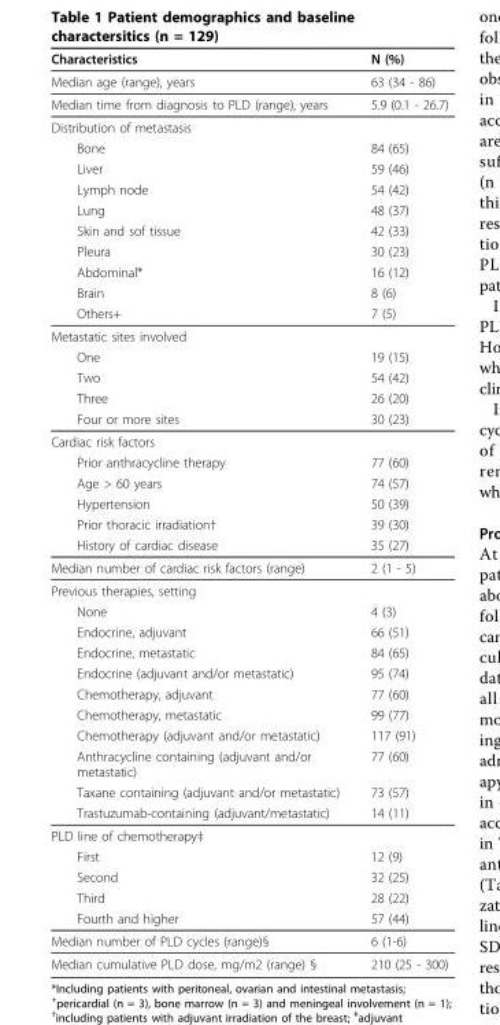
<table><thead><tr><td>Characteristics</td><td>N (%)</td></tr></thead><tbody><tr><td>Median age (range), years</td><td>63 (34 - 86)</td></tr><tr><td>Median time from diagnosis to PLD (range), years</td><td>5.9 (0.1 - 26.7)</td></tr><tr><td colspan="2">Distribution of metastasis</td></tr><tr><td>Bone</td><td>84 (65)</td></tr><tr><td>Liver</td><td>59 (46)</td></tr><tr><td>Lymph node</td><td>54 (42)</td></tr><tr><td>Lung</td><td>48 (37)</td></tr><tr><td>Skin and sof tissue</td><td>42 (33)</td></tr><tr><td>Pleura</td><td>30 (23)</td></tr><tr><td>Abdominal*</td><td>16 (12)</td></tr><tr><td>Brain</td><td>8 (6)</td></tr><tr><td>Others+</td><td>7 (5)</td></tr><tr><td colspan="2">Metastatic sites involved</td></tr><tr><td>One</td><td>19 (15)</td></tr><tr><td>Two</td><td>54 (42)</td></tr><tr><td>Three</td><td>26 (20)</td></tr><tr><td>Four or more sites</td><td>30 (23)</td></tr><tr><td colspan="2">Cardiac risk factors</td></tr><tr><td>Prior anthracycline therapy</td><td>77 (60)</td></tr><tr><td>Age &gt; 60 years</td><td>74 (57)</td></tr><tr><td>Hypertension</td><td>50 (39)</td></tr><tr><td>Prior thoracic irradiation†</td><td>39 (30)</td></tr><tr><td>History of cardiac disease</td><td>35 (27)</td></tr><tr><td>Median number of cardiac risk factors (range)</td><td>2 (1 - 5)</td></tr><tr><td colspan="2">Previous therapies, setting</td></tr><tr><td>None</td><td>4 (3)</td></tr><tr><td>Endocrine, adjuvant</td><td>66 (51)</td></tr><tr><td>Endocrine, metastatic</td><td>84 (65)</td></tr><tr><td>Endocrine (adjuvant and/or metastatic)</td><td>95 (74)</td></tr><tr><td>Chemotherapy, adjuvant</td><td>77 (60)</td></tr><tr><td>Chemotherapy, metastatic</td><td>99 (77)</td></tr><tr><td>Chemotherapy (adjuvant and/or metastatic)</td><td>117 (91)</td></tr><tr><td>Anthracycline containing (adjuvant and/or metastatic)</td><td>77 (60)</td></tr><tr><td>Taxane containing (adjuvant and/or metastatic)</td><td>73 (57)</td></tr><tr><td>Trastuzumab-containing (adjuvant/metastatic)</td><td>14 (11)</td></tr><tr><td colspan="2">PLD line of chemotherapy‡</td></tr><tr><td>First</td><td>12 (9)</td></tr><tr><td>Second</td><td>32 (25)</td></tr><tr><td>Third</td><td>28 (22)</td></tr><tr><td>Fourth and higher</td><td>57 (44)</td></tr><tr><td>Median number of PLD cycles (range)§</td><td>6 (1-6)</td></tr><tr><td>Median cumulative PLD dose, mg/m2 (range) §</td><td>210 (25 - 300)</td></tr></tbody></table>